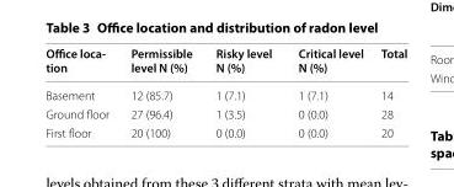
<table><thead><tr><td>Office loca- tion</td><td>Permissible level N (%)</td><td>Risky level N (%)</td><td>Critical level N (%)</td><td>Total</td></tr></thead><tbody><tr><td>Basement</td><td>12 (85.7)</td><td>1 (7.1)</td><td>1 (7.1)</td><td>14</td></tr><tr><td>Ground floor</td><td>27 (96.4)</td><td>1 (3.5)</td><td>0 (0.0)</td><td>28</td></tr><tr><td>First floor</td><td>20 (100)</td><td>0 (0.0)</td><td>0 (0.0)</td><td>20</td></tr></tbody></table>